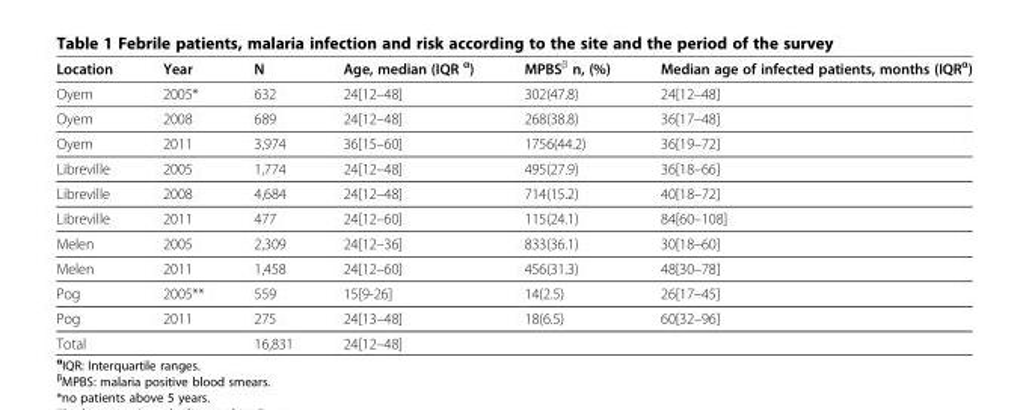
<table><thead><tr><td>Location</td><td>Year</td><td>N</td><td>Age, median (IQR <sup>α</sup>)</td><td>MPBS<sup>β</sup> n, (%)</td><td>Median age of infected patients, months (IQR<sup>α</sup>)</td></tr></thead><tbody><tr><td>Oyem</td><td>2005*</td><td>632</td><td>24[12–48]</td><td>302(47.8)</td><td>24[12–48]</td></tr><tr><td>Oyem</td><td>2008</td><td>689</td><td>24[12–48]</td><td>268(38.8)</td><td>36[17–48]</td></tr><tr><td>Oyem</td><td>2011</td><td>3,974</td><td>36[15–60]</td><td>1756(44.2)</td><td>36[19–72]</td></tr><tr><td>Libreville</td><td>2005</td><td>1,774</td><td>24[12–48]</td><td>495(27.9)</td><td>36[18–66]</td></tr><tr><td>Libreville</td><td>2008</td><td>4,684</td><td>24[12–48]</td><td>714(15.2)</td><td>40[18–72]</td></tr><tr><td>Libreville</td><td>2011</td><td>477</td><td>24[12–60]</td><td>115(24.1)</td><td>84[60–108]</td></tr><tr><td>Melen</td><td>2005</td><td>2,309</td><td>24[12–36]</td><td>833(36.1)</td><td>30[18–60]</td></tr><tr><td>Melen</td><td>2011</td><td>1,458</td><td>24[12–60]</td><td>456(31.3)</td><td>48[30–78]</td></tr><tr><td>Pog</td><td>2005**</td><td>559</td><td>15[9-26]</td><td>14(2.5)</td><td>26[17–45]</td></tr><tr><td>Pog</td><td>2011</td><td>275</td><td>24[13–48]</td><td>18(6.5)</td><td>60[32–96]</td></tr><tr><td>Total</td><td></td><td>16,831</td><td>24[12–48]</td><td></td><td></td></tr></tbody></table>